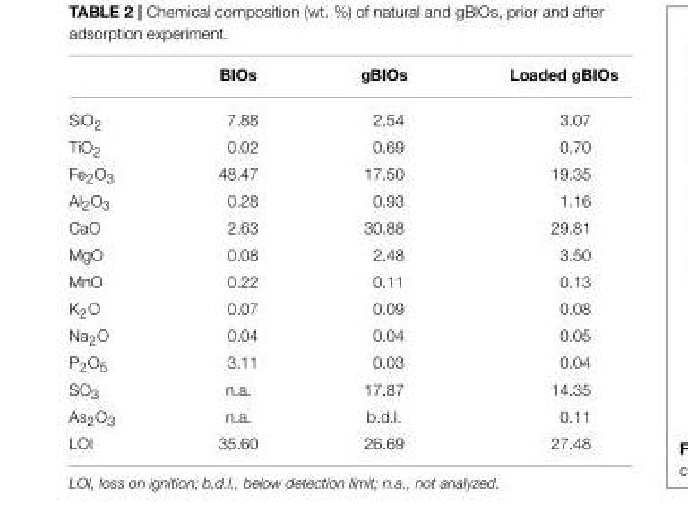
<table><thead><tr><td></td><td>BIOs</td><td>gBIOs</td><td>Loaded gBIOs</td></tr></thead><tbody><tr><td>SiO<sub>2</sub></td><td>7.88</td><td>2.54</td><td>3.07</td></tr><tr><td>TiO<sub>2</sub></td><td>0.02</td><td>0.69</td><td>0.70</td></tr><tr><td>Fe<sub>2</sub>O<sub>3</sub></td><td>48.47</td><td>17.50</td><td>19.35</td></tr><tr><td>Al<sub>2</sub>O<sub>3</sub></td><td>0.28</td><td>0.93</td><td>1.16</td></tr><tr><td>CaO</td><td>2.63</td><td>30.88</td><td>29.81</td></tr><tr><td>MgO</td><td>0.08</td><td>2.48</td><td>3.50</td></tr><tr><td>MnO</td><td>0.22</td><td>0.11</td><td>0.13</td></tr><tr><td>K<sub>2</sub>O</td><td>0.07</td><td>0.09</td><td>0.08</td></tr><tr><td>Na<sub>2</sub>O</td><td>0.04</td><td>0.04</td><td>0.05</td></tr><tr><td>P<sub>2</sub>O<sub>5</sub></td><td>3.11</td><td>0.03</td><td>0.04</td></tr><tr><td>SO<sub>3</sub></td><td>n.a.</td><td>17.87</td><td>14.35</td></tr><tr><td>As<sub>2</sub>O<sub>3</sub></td><td>n.a.</td><td>b.d.l.</td><td>0.11</td></tr><tr><td>LOI</td><td>35.60</td><td>26.69</td><td>27.48</td></tr></tbody></table>